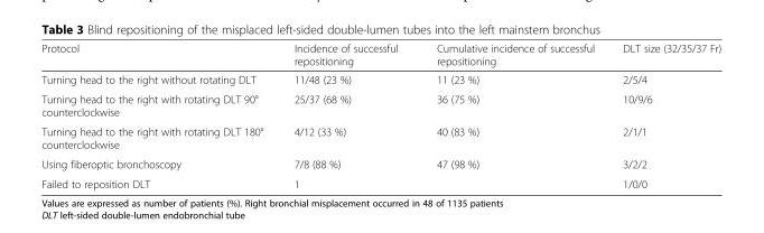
<table><thead><tr><td>Protocol</td><td>Incidence of successful repositioning</td><td>Cumulative incidence of successful repositioning</td><td>DLT size (32/35/37 Fr)</td></tr></thead><tbody><tr><td>Turning head to the right without rotating DLT</td><td>11/48 (23 %)</td><td>11 (23 %)</td><td>2/5/4</td></tr><tr><td>Turning head to the right with rotating DLT 90° counterclockwise</td><td>25/37 (68 %)</td><td>36 (75 %)</td><td>10/9/6</td></tr><tr><td>Turning head to the right with rotating DLT 180° counterclockwise</td><td>4/12 (33 %)</td><td>40 (83 %)</td><td>2/1/1</td></tr><tr><td>Using fiberoptic bronchoscopy</td><td>7/8 (88 %)</td><td>47 (98 %)</td><td>3/2/2</td></tr><tr><td>Failed to reposition DLT</td><td>1</td><td></td><td>1/0/0</td></tr></tbody></table>